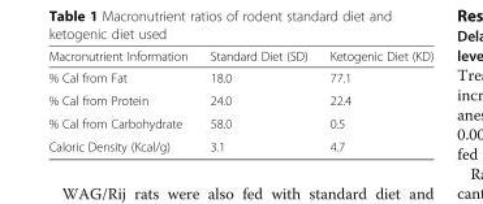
<table><thead><tr><td>Macronutrient Information</td><td>Standard Diet (SD)</td><td>Ketogenic Diet (KD)</td></tr></thead><tbody><tr><td>% Cal from Fat</td><td>18.0</td><td>77.1</td></tr><tr><td>% Cal from Protein</td><td>24.0</td><td>22.4</td></tr><tr><td>% Cal from Carbohydrate</td><td>58.0</td><td>0.5</td></tr><tr><td>Caloric Density (Kcal/g)</td><td>3.1</td><td>4.7</td></tr></tbody></table>